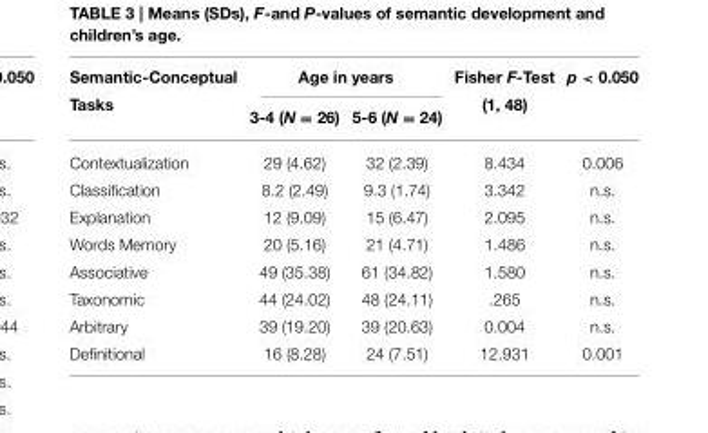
<table><thead><tr><td rowspan="2">Semantic-Conceptual Tasks</td><td colspan="2">Age in years</td><td rowspan="2">Fisher F-Test (1, 48)</td><td rowspan="2">p &lt; 0.050</td></tr><tr><td>3-4 (N = 26)</td><td>5-6 (N = 24)</td></tr></thead><tbody><tr><td>Contextualization</td><td>29 (4.62)</td><td>32 (2.39)</td><td>8.434</td><td>0.006</td></tr><tr><td>Classification</td><td>8.2 (2.49)</td><td>9.3 (1.74)</td><td>3.342</td><td>n.s.</td></tr><tr><td>Explanation</td><td>12 (9.09)</td><td>15 (6.47)</td><td>2.095</td><td>n.s.</td></tr><tr><td>Words Memory</td><td>20 (5.16)</td><td>21 (4.71)</td><td>1.486</td><td>n.s.</td></tr><tr><td>Associative</td><td>49 (35.38)</td><td>61 (34.82)</td><td>1.580</td><td>n.s.</td></tr><tr><td>Taxonomic</td><td>44 (24.02)</td><td>48 (24.11)</td><td>.265</td><td>n.s.</td></tr><tr><td>Arbitrary</td><td>39 (19.20)</td><td>39 (20.63)</td><td>0.004</td><td>n.s.</td></tr><tr><td>Definitional</td><td>16 (8.28)</td><td>24 (7.51)</td><td>12.931</td><td>0.001</td></tr></tbody></table>